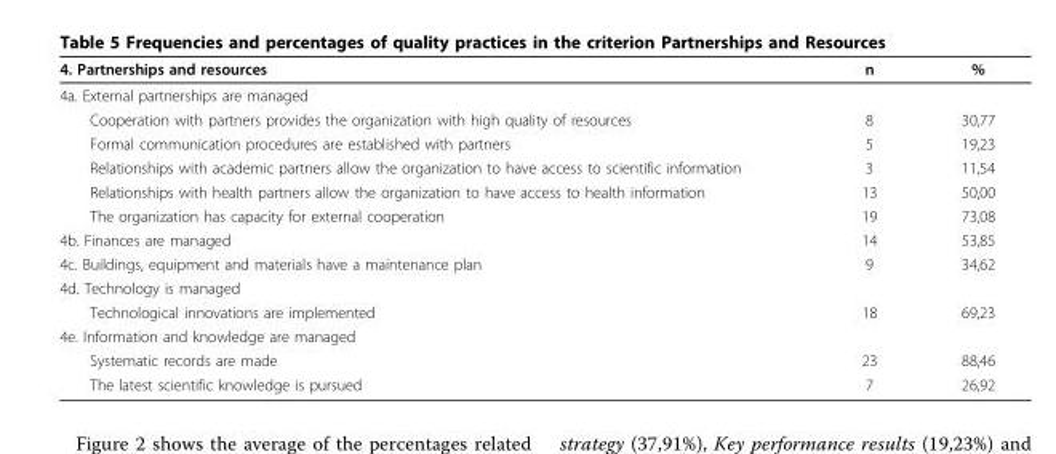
<table><thead><tr><td>4. Partnerships and resources</td><td>n</td><td>%</td></tr></thead><tbody><tr><td colspan="3">4a. External partnerships are managed</td></tr><tr><td>Cooperation with partners provides the organization with high quality of resources</td><td>8</td><td>30,77</td></tr><tr><td>Formal communication procedures are established with partners</td><td>5</td><td>19,23</td></tr><tr><td>Relationships with academic partners allow the organization to have access to scientific information</td><td>3</td><td>11,54</td></tr><tr><td>Relationships with health partners allow the organization to have access to health information</td><td>13</td><td>50,00</td></tr><tr><td>The organization has capacity for external cooperation</td><td>19</td><td>73,08</td></tr><tr><td>4b. Finances are managed</td><td>14</td><td>53,85</td></tr><tr><td>4c. Buildings, equipment and materials have a maintenance plan</td><td>9</td><td>34,62</td></tr><tr><td colspan="3">4d. Technology is managed</td></tr><tr><td>Technological innovations are implemented</td><td>18</td><td>69,23</td></tr><tr><td colspan="3">4e. Information and knowledge are managed</td></tr><tr><td>Systematic records are made</td><td>23</td><td>88,46</td></tr><tr><td>The latest scientific knowledge is pursued</td><td>7</td><td>26,92</td></tr></tbody></table>